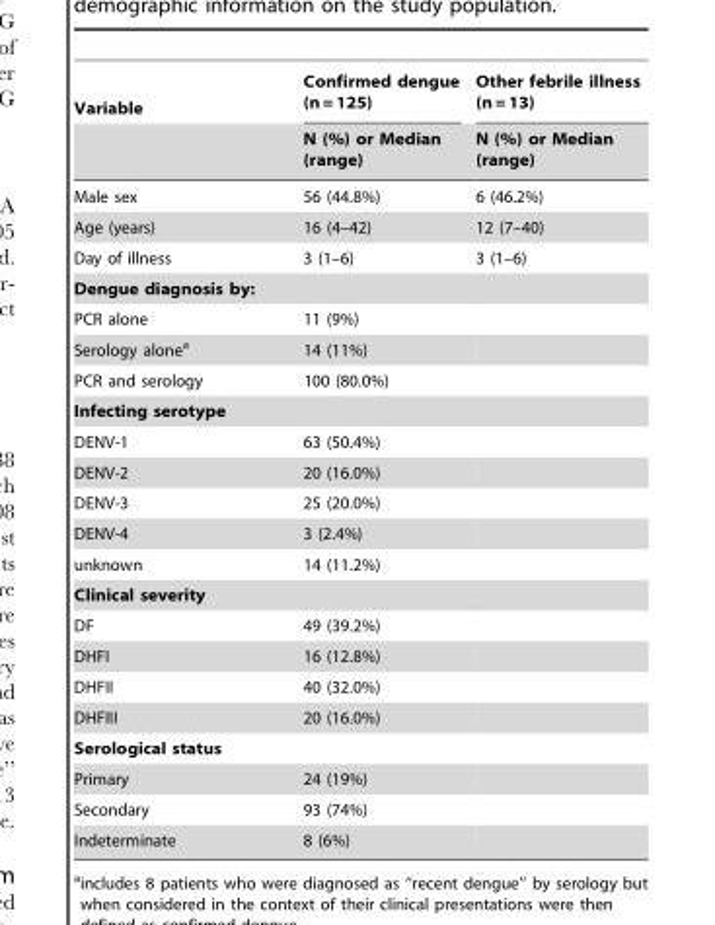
<table><thead><tr><td rowspan="2">Variable</td><td rowspan="2">Confirmed dengue (n = 125) N (%) or Median (range)</td><td rowspan="2">Other febrile illness (n = 13) N (%) or Median (range)</td></tr><tr></tr></thead><tbody><tr><td>Male sex</td><td>56 (44.8%)</td><td>6 (46.2%)</td></tr><tr><td>Age (years)</td><td>16 (4–42)</td><td>12 (7–40)</td></tr><tr><td>Day of illness</td><td>3 (1–6)</td><td>3 (1–6)</td></tr><tr><td colspan="3">Dengue diagnosis by:</td></tr><tr><td>PCR alone</td><td>11 (9%)</td><td></td></tr><tr><td>Serology alone<sup>a</sup></td><td>14 (11%)</td><td></td></tr><tr><td>PCR and serology</td><td>100 (80.0%)</td><td></td></tr><tr><td colspan="3">Infecting serotype</td></tr><tr><td>DENV-1</td><td>63 (50.4%)</td><td></td></tr><tr><td>DENV-2</td><td>20 (16.0%)</td><td></td></tr><tr><td>DENV-3</td><td>25 (20.0%)</td><td></td></tr><tr><td>DENV-4</td><td>3 (2.4%)</td><td></td></tr><tr><td>unknown</td><td>14 (11.2%)</td><td></td></tr><tr><td colspan="3">Clinical severity</td></tr><tr><td>DF</td><td>49 (39.2%)</td><td></td></tr><tr><td>DHFI</td><td>16 (12.8%)</td><td></td></tr><tr><td>DHFII</td><td>40 (32.0%)</td><td></td></tr><tr><td>DHFIII</td><td>20 (16.0%)</td><td></td></tr><tr><td colspan="3">Serological status</td></tr><tr><td>Primary</td><td>24 (19%)</td><td></td></tr><tr><td>Secondary</td><td>93 (74%)</td><td></td></tr><tr><td>Indeterminate</td><td>8 (6%)</td><td></td></tr></tbody></table>